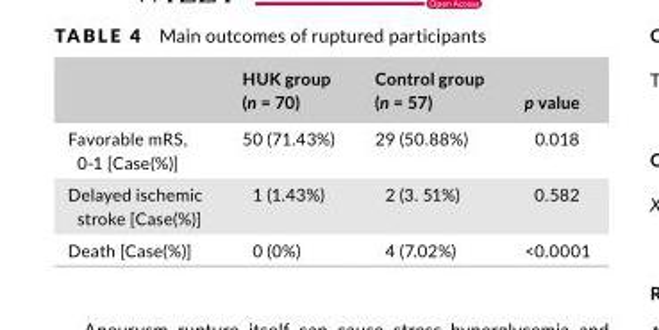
<table><thead><tr><td></td><td>HUK group (n = 70)</td><td>Control group (n = 57)</td><td>p value</td></tr></thead><tbody><tr><td>Favorable mRS, 0- 1 [Case(%)]</td><td>50 (71.43%)</td><td>29 (50.88%)</td><td>0.018</td></tr><tr><td>Delayed ischemic stroke [Case(%)]</td><td>1 (1.43%)</td><td>2 (3. 51%)</td><td>0.582</td></tr><tr><td>Death [Case(%)]</td><td>0 (0%)</td><td>4 (7.02%)</td><td>&lt;0.0001</td></tr></tbody></table>